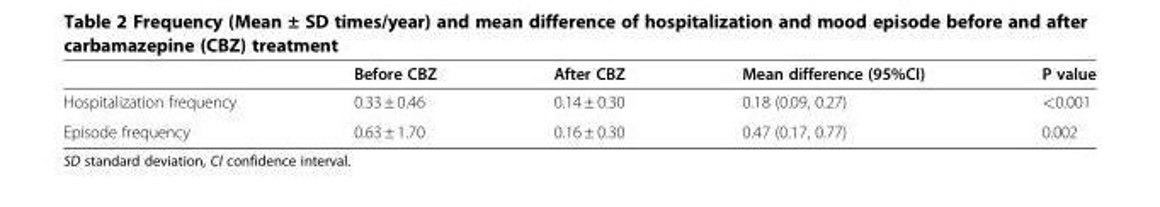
<table><thead><tr><td></td><td>Before CBZ</td><td>After CBZ</td><td>Mean difference (95%CI)</td><td>P value</td></tr></thead><tbody><tr><td>Hospitalization frequency</td><td>0.33 ± 0.46</td><td>0.14 ± 0.30</td><td>0.18 (0.09, 0.27)</td><td>&lt;0.001</td></tr><tr><td>Episode frequency</td><td>0.63 ± 1.70</td><td>0.16 ± 0.30</td><td>0.47 (0.17, 0.77)</td><td>0.002</td></tr></tbody></table>